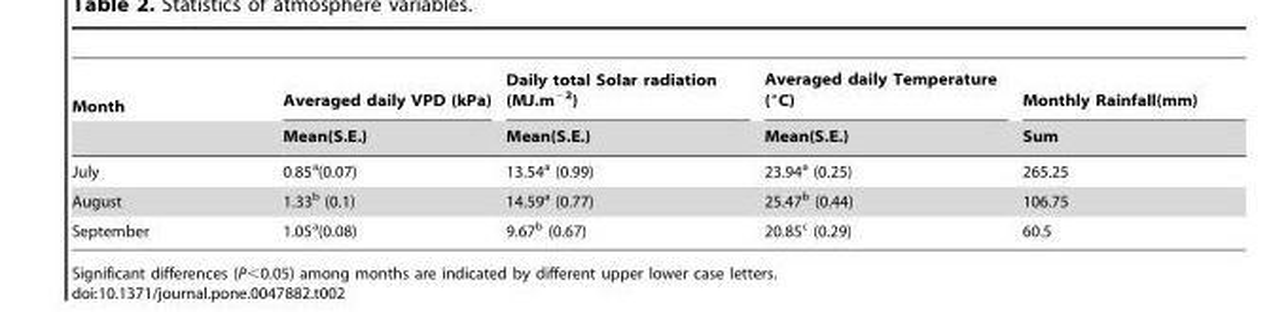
<table><thead><tr><td rowspan="2">Month</td><td rowspan="2">Averaged daily VPD (kPa) Mean(S.E.)</td><td rowspan="2">Daily total Solar radiation (MJ.m<sup>−2</sup>) Mean(S.E.)</td><td rowspan="2">Averaged daily Temperature (°C) Mean(S.E.)</td><td rowspan="2">Monthly Rainfall(mm) Sum</td></tr><tr></tr></thead><tbody><tr><td>July</td><td>0.85<sup>a</sup>(0.07)</td><td>13.54<sup>a</sup> (0.99)</td><td>23.94<sup>a</sup> (0.25)</td><td>265.25</td></tr><tr><td>August</td><td>1.33<sup>b</sup> (0.1)</td><td>14.59<sup>a</sup> (0.77)</td><td>25.47<sup>b</sup> (0.44)</td><td>106.75</td></tr><tr><td>September</td><td>1.05<sup>a</sup>(0.08)</td><td>9.67<sup>b</sup> (0.67)</td><td>20.85<sup>c</sup> (0.29)</td><td>60.5</td></tr></tbody></table>